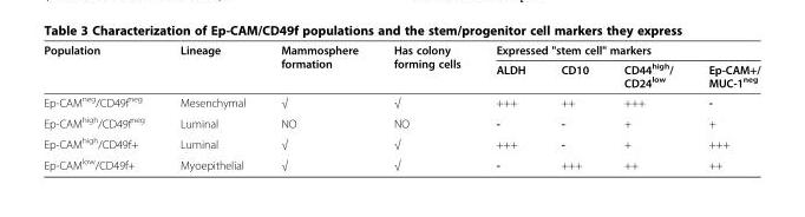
<table><thead><tr><td rowspan="2">Population</td><td rowspan="2">Lineage</td><td rowspan="2">Mammosphere formation</td><td rowspan="2">Has colony forming cells</td><td colspan="4">Expressed &quot;stem cell&quot; markers</td></tr><tr><td>ALDH</td><td>CD10</td><td>CD44<sup>high</sup>/ CD24<sup>low</sup></td><td>Ep-CAM+/ MUC-1<sup>neg</sup></td></tr></thead><tbody><tr><td>Ep-CAM<sup>neg</sup>/CD49f<sup>neg</sup></td><td>Mesenchymal</td><td>√</td><td>√</td><td>+++</td><td>++</td><td>+++</td><td>-</td></tr><tr><td>Ep-CAM<sup>high</sup>/CD49f<sup>neg</sup></td><td>Luminal</td><td>NO</td><td>NO</td><td>-</td><td>-</td><td>+</td><td>+</td></tr><tr><td>Ep-CAM<sup>high</sup>/CD49f+</td><td>Luminal</td><td>√</td><td>√</td><td>+++</td><td>-</td><td>+</td><td>+++</td></tr><tr><td>Ep-CAM<sup>low</sup>/CD49f+</td><td>Myoepithelial</td><td>√</td><td>√</td><td>-</td><td>+++</td><td>++</td><td>++</td></tr></tbody></table>